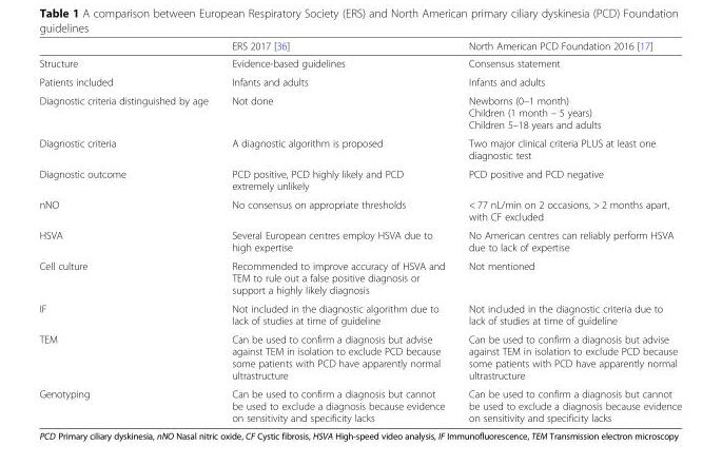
<table><thead><tr><td></td><td>ERS 2017 [36]</td><td>North American PCD Foundation 2016 [17]</td></tr></thead><tbody><tr><td>Structure</td><td>Evidence-based guidelines</td><td>Consensus statement</td></tr><tr><td>Patients included</td><td>Infants and adults</td><td>Infants and adults</td></tr><tr><td>Diagnostic criteria distinguished by age</td><td>Not done</td><td>Newborns (0–1 month) Children (1 month – 5 years) Children 5–18 years and adults</td></tr><tr><td>Diagnostic criteria</td><td>A diagnostic algorithm is proposed</td><td>Two major clinical criteria PLUS at least one diagnostic test</td></tr><tr><td>Diagnostic outcome</td><td>PCD positive, PCD highly likely and PCD extremely unlikely</td><td>PCD positive and PCD negative</td></tr><tr><td>nNO</td><td>No consensus on appropriate thresholds</td><td>&lt; 77 nL/min on 2 occasions, &gt; 2 months apart, with CF excluded</td></tr><tr><td>HSVA</td><td>Several European centres employ HSVA due to high expertise</td><td>No American centres can reliably perform HSVA due to lack of expertise</td></tr><tr><td>Cell culture</td><td>Recommended to improve accuracy of HSVA and TEM to rule out a false positive diagnosis or support a highly likely diagnosis</td><td>Not mentioned</td></tr><tr><td>IF</td><td>Not included in the diagnostic algorithm due to lack of studies at time of guideline</td><td>Not included in the diagnostic criteria due to lack of studies at time of guideline</td></tr><tr><td>TEM</td><td>Can be used to confirm a diagnosis but advise against TEM in isolation to exclude PCD because some patients with PCD have apparently normal ultrastructure</td><td>Can be used to confirm a diagnosis but advise against TEM in isolation to exclude PCD because some patients with PCD have apparently normal ultrastructure</td></tr><tr><td>Genotyping</td><td>Can be used to confirm a diagnosis but cannot be used to exclude a diagnosis because evidence on sensitivity and specificity lacks</td><td>Can be used to confirm a diagnosis but cannot be used to exclude a diagnosis because evidence on sensitivity and specificity lacks</td></tr></tbody></table>